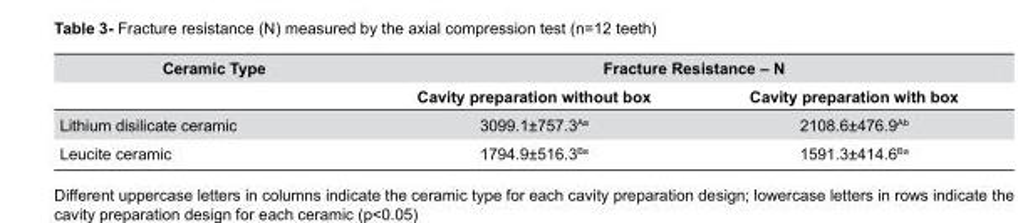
<table><thead><tr><td rowspan="2">Ceramic Type</td><td colspan="2">Fracture Resistance – N</td></tr><tr><td>Cavity preparation without box</td><td>Cavity preparation with box</td></tr></thead><tbody><tr><td>Lithium disilicate ceramic</td><td>3099.1±757.3<sup>Aa</sup></td><td>2108.6±476.9<sup>Ab</sup></td></tr><tr><td>Leucite ceramic</td><td>1794.9±516.3<sup>Ba</sup></td><td>1591.3±414.6<sup>Ba</sup></td></tr></tbody></table>